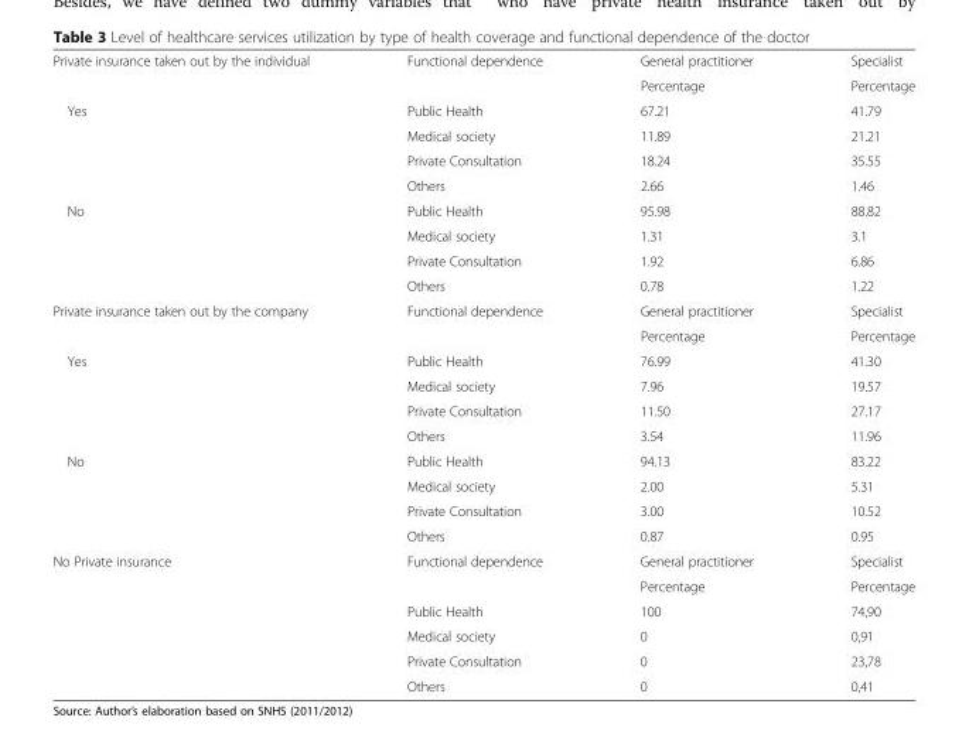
<table><tbody><tr><td rowspan="2">Private insurance taken out by the individual</td><td rowspan="2">Functional dependence</td><td>General practitioner</td><td>Specialist</td></tr><tr><td>Percentage</td><td>Percentage</td></tr><tr><td rowspan="4">Yes</td><td>Public Health</td><td>67.21</td><td>41.79</td></tr><tr><td>Medical society</td><td>11.89</td><td>21.21</td></tr><tr><td>Private Consultation</td><td>18.24</td><td>35.55</td></tr><tr><td>Others</td><td>2.66</td><td>1.46</td></tr><tr><td rowspan="4">No</td><td>Public Health</td><td>95.98</td><td>88.82</td></tr><tr><td>Medical society</td><td>1.31</td><td>3.1</td></tr><tr><td>Private Consultation</td><td>1.92</td><td>6.86</td></tr><tr><td>Others</td><td>0.78</td><td>1.22</td></tr><tr><td rowspan="2">Private insurance taken out by the company</td><td rowspan="2">Functional dependence</td><td>General practitioner</td><td>Specialist</td></tr><tr><td>Percentage</td><td>Percentage</td></tr><tr><td rowspan="4">Yes</td><td>Public Health</td><td>76.99</td><td>41.30</td></tr><tr><td>Medical society</td><td>7.96</td><td>19.57</td></tr><tr><td>Private Consultation</td><td>11.50</td><td>27.17</td></tr><tr><td>Others</td><td>3.54</td><td>11.96</td></tr><tr><td rowspan="4">No</td><td>Public Health</td><td>94.13</td><td>83.22</td></tr><tr><td>Medical society</td><td>2.00</td><td>5.31</td></tr><tr><td>Private Consultation</td><td>3.00</td><td>10.52</td></tr><tr><td>Others</td><td>0.87</td><td>0.95</td></tr><tr><td rowspan="6">No Private insurance</td><td rowspan="2">Functional dependence</td><td>General practitioner</td><td>Specialist</td></tr><tr><td>Percentage</td><td>Percentage</td></tr><tr><td>Public Health</td><td>100</td><td>74,90</td></tr><tr><td>Medical society</td><td>0</td><td>0,91</td></tr><tr><td>Private Consultation</td><td>0</td><td>23,78</td></tr><tr><td>Others</td><td>0</td><td>0,41</td></tr></tbody></table>